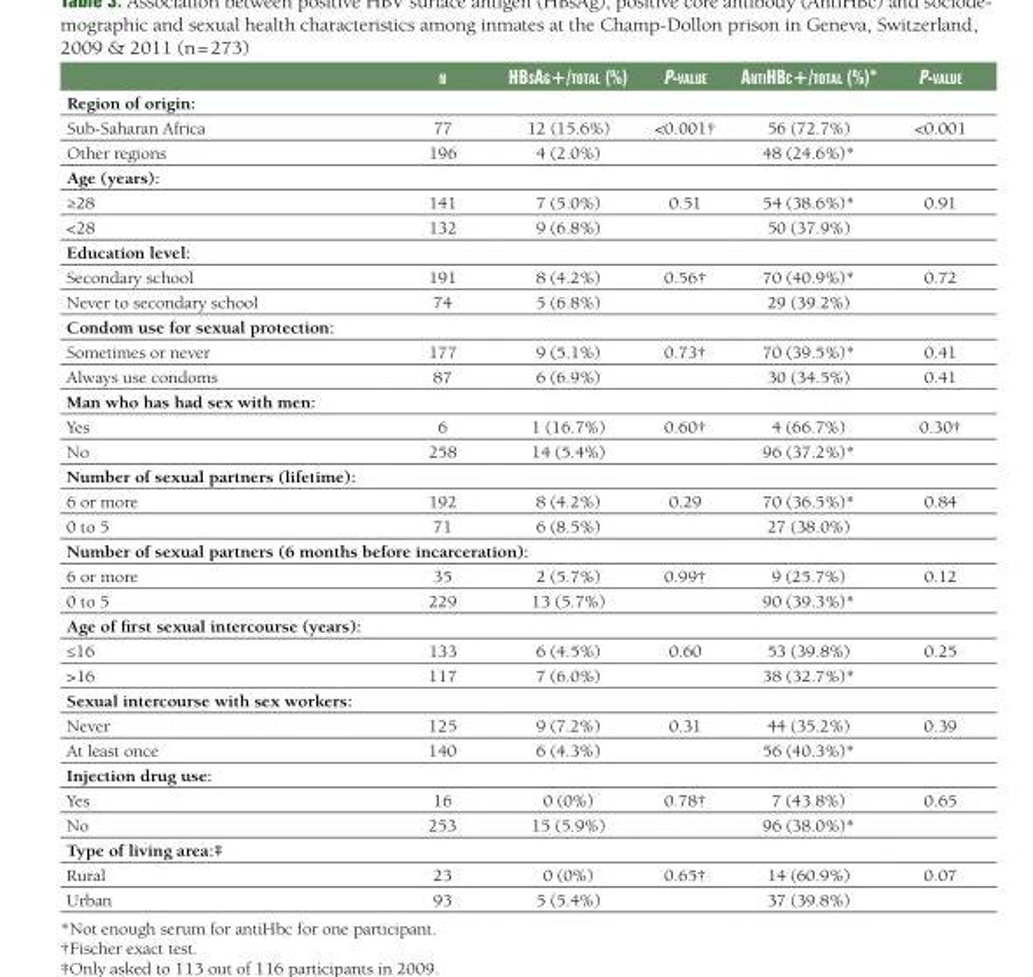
<table><thead><tr><td></td><td>n</td><td>hBsag+/total (%)</td><td>P-value</td><td>antihBC+/total (%)*</td><td>P-value</td></tr></thead><tbody><tr><td colspan="6">Region of origin:</td></tr><tr><td>Sub-Saharan Africa</td><td>77</td><td>12 (15.6%)</td><td>&lt;0.001†</td><td>56 (72.7%)</td><td>&lt;0.001</td></tr><tr><td>Other regions</td><td>196</td><td>4 (2.0%)</td><td></td><td>48 (24.6%)*</td><td></td></tr><tr><td colspan="6">Age (years):</td></tr><tr><td>≥28</td><td>141</td><td>7 (5.0%)</td><td>0.51</td><td>54 (38.6%)*</td><td>0.91</td></tr><tr><td>&lt;28</td><td>132</td><td>9 (6.8%)</td><td></td><td>50 (37.9%)</td><td></td></tr><tr><td colspan="6">Education level:</td></tr><tr><td>Secondary school</td><td>191</td><td>8 (4.2%)</td><td>0.56†</td><td>70 (40.9%)*</td><td>0.72</td></tr><tr><td>Never to secondary school</td><td>74</td><td>5 (6.8%)</td><td></td><td>29 (39.2%)</td><td></td></tr><tr><td colspan="6">Condom use for sexual protection:</td></tr><tr><td>Sometimes or never</td><td>177</td><td>9 (5.1%)</td><td>0.73†</td><td>70 (39.5%)*</td><td>0.41</td></tr><tr><td>Always use condoms</td><td>87</td><td>6 (6.9%)</td><td></td><td>30 (34.5%)</td><td>0.41</td></tr><tr><td colspan="6">Man who has had sex with men:</td></tr><tr><td>Yes</td><td>6</td><td>1 (16.7%)</td><td>0.60†</td><td>4 (66.7%)</td><td>0.30†</td></tr><tr><td>No</td><td>258</td><td>14 (5.4%)</td><td></td><td>96 (37.2%)*</td><td></td></tr><tr><td colspan="6">Number of sexual partners (lifetime):</td></tr><tr><td>6 or more</td><td>192</td><td>8 (4.2%)</td><td>0.29</td><td>70 (36.5%)*</td><td>0.84</td></tr><tr><td>0 to 5</td><td>71</td><td>6 (8.5%)</td><td></td><td>27 (38.0%)</td><td></td></tr><tr><td colspan="6">Number of sexual partners (6 months before incarceration):</td></tr><tr><td>6 or more</td><td>35</td><td>2 (5.7%)</td><td>0.99†</td><td>9 (25.7%)</td><td>0.12</td></tr><tr><td>0 to 5</td><td>229</td><td>13 (5.7%)</td><td></td><td>90 (39.3%)*</td><td></td></tr><tr><td colspan="6">Age of first sexual intercourse (years):</td></tr><tr><td>≤16</td><td>133</td><td>6 (4.5%)</td><td>0.60</td><td>53 (39.8%)</td><td>0.25</td></tr><tr><td>&gt;16</td><td>117</td><td>7 (6.0%)</td><td></td><td>38 (32.7%)*</td><td></td></tr><tr><td colspan="6">Sexual intercourse with sex workers:</td></tr><tr><td>Never</td><td>125</td><td>9 (7.2%)</td><td>0.31</td><td>44 (35.2%)</td><td>0.39</td></tr><tr><td>At least once</td><td>140</td><td>6 (4.3%)</td><td></td><td>56 (40.3%)*</td><td></td></tr><tr><td colspan="6">Injection drug use:</td></tr><tr><td>Yes</td><td>16</td><td>0 (0%)</td><td>0.78†</td><td>7 (43.8%)</td><td>0.65</td></tr><tr><td>No</td><td>253</td><td>15 (5.9%)</td><td></td><td>96 (38.0%)*</td><td></td></tr><tr><td colspan="6">Type of living area:‡</td></tr><tr><td>Rural</td><td>23</td><td>0 (0%)</td><td>0.65†</td><td>14 (60.9%)</td><td>0.07</td></tr><tr><td>Urban</td><td>93</td><td>5 (5.4%)</td><td></td><td>37 (39.8%)</td><td></td></tr></tbody></table>